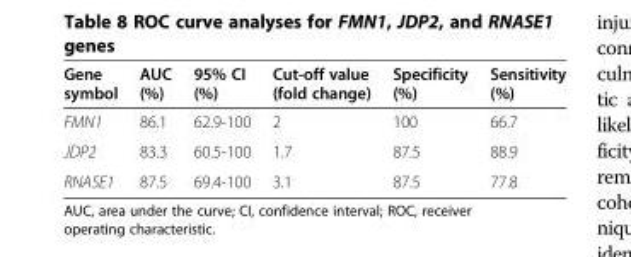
<table><thead><tr><td>Gene symbol</td><td>AUC (%)</td><td>95% CI (%)</td><td>Cut-off value (fold change)</td><td>Specificity (%)</td><td>Sensitivity (%)</td></tr></thead><tbody><tr><td>FMN1</td><td>86.1</td><td>62.9-100</td><td>2</td><td>100</td><td>66.7</td></tr><tr><td>JDP2</td><td>83.3</td><td>60.5-100</td><td>1.7</td><td>87.5</td><td>88.9</td></tr><tr><td>RNASE1</td><td>87.5</td><td>69.4-100</td><td>3.1</td><td>87.5</td><td>77.8</td></tr></tbody></table>